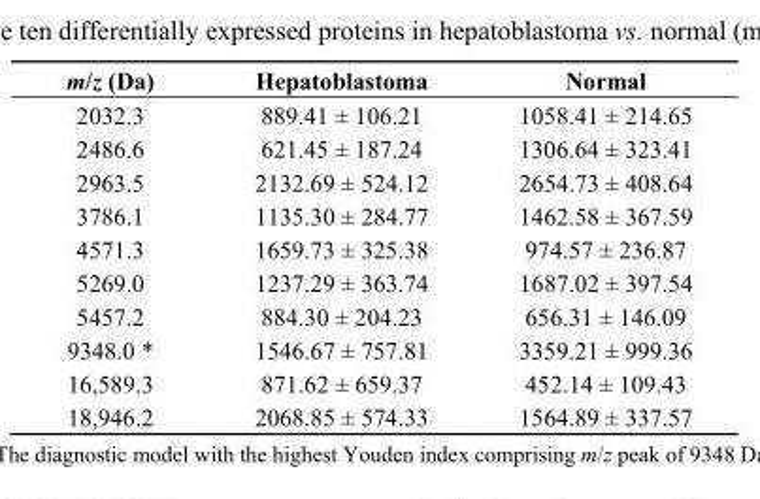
<table><thead><tr><td>m/z (Da)</td><td>Hepatoblastoma</td><td>Normal</td></tr></thead><tbody><tr><td>2032.3</td><td>889.41 ± 106.21</td><td>1058.41 ± 214.65</td></tr><tr><td>2486.6</td><td>621.45 ± 187.24</td><td>1306.64 ± 323.41</td></tr><tr><td>2963.5</td><td>2132.69 ± 524.12</td><td>2654.73 ± 408.64</td></tr><tr><td>3786.1</td><td>1135.30 ± 284.77</td><td>1462.58 ± 367.59</td></tr><tr><td>4571.3</td><td>1659.73 ± 325.38</td><td>974.57 ± 236.87</td></tr><tr><td>5269.0</td><td>1237.29 ± 363.74</td><td>1687.02 ± 397.54</td></tr><tr><td>5457.2</td><td>884.30 ± 204.23</td><td>656.31 ± 146.09</td></tr><tr><td>9348.0 *</td><td>1546.67 ± 757.81</td><td>3359.21 ± 999.36</td></tr><tr><td>16,589.3</td><td>871.62 ± 659.37</td><td>452.14 ± 109.43</td></tr><tr><td>18,946.2</td><td>2068.85 ± 574.33</td><td>1564.89 ± 337.57</td></tr></tbody></table>